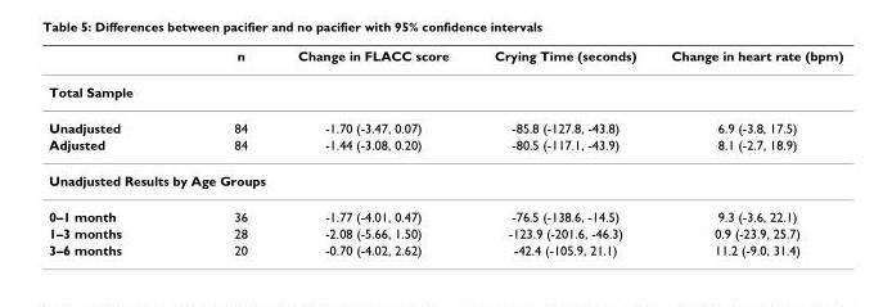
<table><thead><tr><td></td><td>n</td><td>Change in FLACC score</td><td>Crying Time (seconds)</td><td>Change in heart rate (bpm)</td></tr></thead><tbody><tr><td colspan="5">Total Sample</td></tr><tr><td>Unadjusted</td><td>84</td><td>-1.70 (-3.47, 0.07)</td><td>-85.8 (-127.8, -43.8)</td><td>6.9 (-3.8, 17.5)</td></tr><tr><td>Adjusted</td><td>84</td><td>-1.44 (-3.08, 0.20)</td><td>-80.5 (-117.1, -43.9)</td><td>8.1 (-2.7, 18.9)</td></tr><tr><td colspan="5">Unadjusted Results by Age Groups</td></tr><tr><td>0–1 month</td><td>36</td><td>-1.77 (-4.01, 0.47)</td><td>-76.5 (-138.6, -14.5)</td><td>9.3 (-3.6, 22.1)</td></tr><tr><td>1–3 months</td><td>28</td><td>-2.08 (-5.66, 1.50)</td><td>-123.9 (-201.6, -46.3)</td><td>0.9 (-23.9, 25.7)</td></tr><tr><td>3–6 months</td><td>20</td><td>-0.70 (-4.02, 2.62)</td><td>-42.4 (-105.9, 21.1)</td><td>11.2 (-9.0, 31.4)</td></tr></tbody></table>